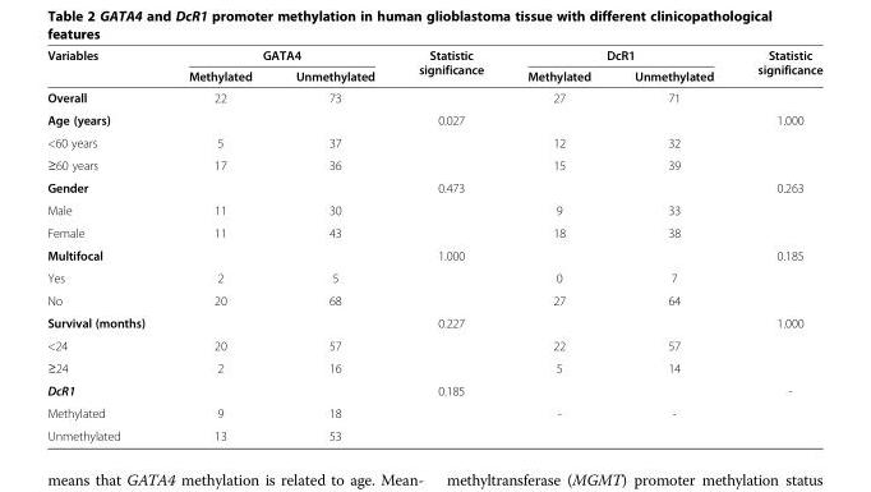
<table><thead><tr><td rowspan="2">Variables</td><td colspan="2">GATA4</td><td rowspan="2">Statistic significance</td><td colspan="2">DcR1</td><td rowspan="2">Statistic significance</td></tr><tr><td>Methylated</td><td>Unmethylated</td><td>Methylated</td><td>Unmethylated</td></tr></thead><tbody><tr><td>Overall</td><td>22</td><td>73</td><td></td><td>27</td><td>71</td><td></td></tr><tr><td>Age (years)</td><td></td><td></td><td>0.027</td><td></td><td></td><td>1.000</td></tr><tr><td>&lt;60 years</td><td>5</td><td>37</td><td></td><td>12</td><td>32</td><td></td></tr><tr><td>≥60 years</td><td>17</td><td>36</td><td></td><td>15</td><td>39</td><td></td></tr><tr><td>Gender</td><td></td><td></td><td>0.473</td><td></td><td></td><td>0.263</td></tr><tr><td>Male</td><td>11</td><td>30</td><td></td><td>9</td><td>33</td><td></td></tr><tr><td>Female</td><td>11</td><td>43</td><td></td><td>18</td><td>38</td><td></td></tr><tr><td>Multifocal</td><td></td><td></td><td>1.000</td><td></td><td></td><td>0.185</td></tr><tr><td>Yes</td><td>2</td><td>5</td><td></td><td>0</td><td>7</td><td></td></tr><tr><td>No</td><td>20</td><td>68</td><td></td><td>27</td><td>64</td><td></td></tr><tr><td>Survival (months)</td><td></td><td></td><td>0.227</td><td></td><td></td><td>1.000</td></tr><tr><td>&lt;24</td><td>20</td><td>57</td><td></td><td>22</td><td>57</td><td></td></tr><tr><td>≥24</td><td>2</td><td>16</td><td></td><td>5</td><td>14</td><td></td></tr><tr><td>DcR1</td><td></td><td></td><td>0.185</td><td></td><td></td><td>-</td></tr><tr><td>Methylated</td><td>9</td><td>18</td><td></td><td>-</td><td>-</td><td></td></tr><tr><td>Unmethylated</td><td>13</td><td>53</td><td></td><td></td><td></td><td></td></tr></tbody></table>